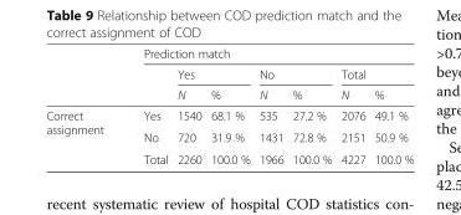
<table><thead><tr><td rowspan="3"></td><td colspan="7">Prediction match</td></tr><tr><td rowspan="2"></td><td colspan="2">Yes</td><td colspan="2">No</td><td colspan="2">Total</td></tr><tr><td>N</td><td>%</td><td>N</td><td>%</td><td>N</td><td>%</td></tr></thead><tbody><tr><td rowspan="3">Correct assignment</td><td>Yes</td><td>1540</td><td>68.1 %</td><td>535</td><td>27.2 %</td><td>2076</td><td>49.1 %</td></tr><tr><td>No</td><td>720</td><td>31.9 %</td><td>1431</td><td>72.8 %</td><td>2151</td><td>50.9 %</td></tr><tr><td>Total</td><td>2260</td><td>100.0 %</td><td>1966</td><td>100.0 %</td><td>4227</td><td>100.0 %</td></tr></tbody></table>